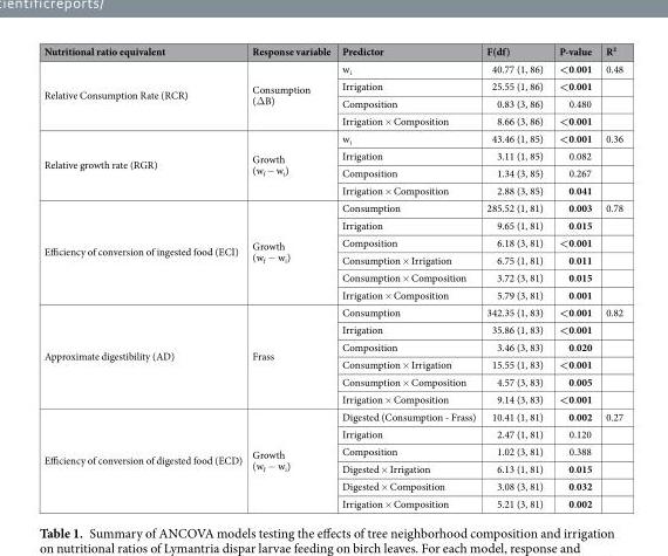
<table><thead><tr><td>Nutritional ratio equivalent</td><td>Response variable</td><td>Predictor</td><td>F(df)</td><td>P-value</td><td>R²</td></tr></thead><tbody><tr><td rowspan="4">Relative Consumption Rate (RCR)</td><td rowspan="4">Consumption (ΔB)</td><td>w<sub>i</sub></td><td>40.77 (1, 86)</td><td>&lt;0.001</td><td>0.48</td></tr><tr><td>Irrigation</td><td>25.55 (1, 86)</td><td>&lt;0.001</td><td></td></tr><tr><td>Composition</td><td>0.83 (3, 86)</td><td>0.480</td><td></td></tr><tr><td>Irrigation × Composition</td><td>8.66 (3, 86)</td><td>&lt;0.001</td><td></td></tr><tr><td rowspan="4">Relative growth rate (RGR)</td><td rowspan="4">Growth (w<sub>f</sub> − w<sub>i</sub>)</td><td>w<sub>i</sub></td><td>43.46 (1, 85)</td><td>&lt;0.001</td><td>0.36</td></tr><tr><td>Irrigation</td><td>3.11 (1, 85)</td><td>0.082</td><td></td></tr><tr><td>Composition</td><td>1.34 (3, 85)</td><td>0.267</td><td></td></tr><tr><td>Irrigation × Composition</td><td>2.88 (3, 85)</td><td>0.041</td><td></td></tr><tr><td rowspan="6">Efficiency of conversion of ingested food (ECI)</td><td rowspan="6">Growth (w<sub>f</sub> − w<sub>i</sub>)</td><td>Consumption</td><td>285.52 (1, 81)</td><td>0.003</td><td>0.78</td></tr><tr><td>Irrigation</td><td>9.65 (1, 81)</td><td>0.015</td><td></td></tr><tr><td>Composition</td><td>6.18 (3, 81)</td><td>&lt;0.001</td><td></td></tr><tr><td>Consumption × Irrigation</td><td>6.75 (1, 81)</td><td>0.011</td><td></td></tr><tr><td>Consumption × Composition</td><td>3.72 (3, 81)</td><td>0.015</td><td></td></tr><tr><td>Irrigation × Composition</td><td>5.79 (3, 81)</td><td>0.001</td><td></td></tr><tr><td rowspan="6">Approximate digestibility (AD)</td><td rowspan="6">Frass</td><td>Consumption</td><td>342.35 (1, 83)</td><td>&lt;0.001</td><td>0.82</td></tr><tr><td>Irrigation</td><td>35.86 (1, 83)</td><td>&lt;0.001</td><td></td></tr><tr><td>Composition</td><td>3.46 (3, 83)</td><td>0.020</td><td></td></tr><tr><td>Consumption × Irrigation</td><td>15.55 (1, 83)</td><td>&lt;0.001</td><td></td></tr><tr><td>Consumption × Composition</td><td>4.57 (3, 83)</td><td>0.005</td><td></td></tr><tr><td>Irrigation × Composition</td><td>9.14 (3, 83)</td><td>&lt;0.001</td><td></td></tr><tr><td rowspan="6">Efficiency of conversion of digested food (ECD)</td><td rowspan="6">Growth (w<sub>f</sub> − w<sub>i</sub>)</td><td>Digested (Consumption - Frass)</td><td>10.41 (1, 81)</td><td>0.002</td><td>0.27</td></tr><tr><td>Irrigation</td><td>2.47 (1, 81)</td><td>0.120</td><td></td></tr><tr><td>Composition</td><td>1.02 (3, 81)</td><td>0.388</td><td></td></tr><tr><td>Digested × Irrigation</td><td>6.13 (1, 81)</td><td>0.015</td><td></td></tr><tr><td>Digested × Composition</td><td>3.08 (3, 81)</td><td>0.032</td><td></td></tr><tr><td>Irrigation × Composition</td><td>5.21 (3, 81)</td><td>0.002</td><td></td></tr></tbody></table>